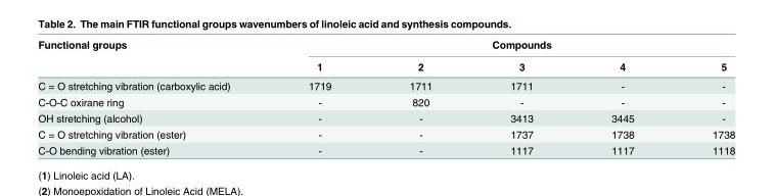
<table><thead><tr><td rowspan="2">Functional groups</td><td colspan="5">Compounds</td></tr><tr><td>1</td><td>2</td><td>3</td><td>4</td><td>5</td></tr></thead><tbody><tr><td>C = O stretching vibration (carboxylic acid)</td><td>1719</td><td>1711</td><td>1711</td><td>-</td><td>-</td></tr><tr><td>C-O-C oxirane ring</td><td>-</td><td>820</td><td>-</td><td>-</td><td>-</td></tr><tr><td>OH stretching (alcohol)</td><td>-</td><td>-</td><td>3413</td><td>3445</td><td>-</td></tr><tr><td>C = O stretching vibration (ester)</td><td>-</td><td>-</td><td>1737</td><td>1738</td><td>1738</td></tr><tr><td>C-O bending vibration (ester)</td><td>-</td><td>-</td><td>1117</td><td>1117</td><td>1118</td></tr></tbody></table>